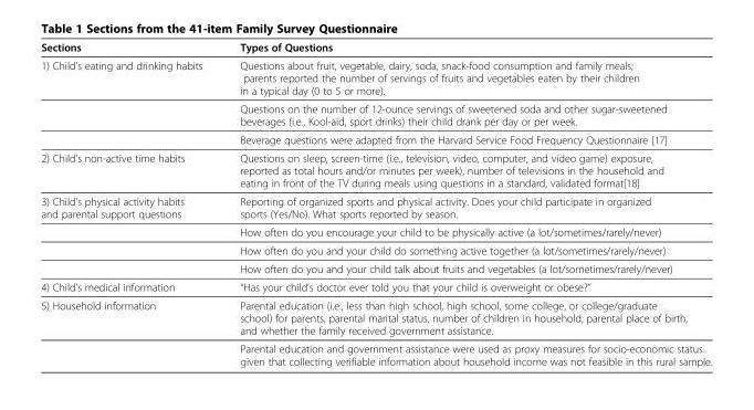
<table><thead><tr><td>Sections</td><td>Types of Questions</td></tr></thead><tbody><tr><td rowspan="3">1) Child’s eating and drinking habits</td><td>Questions about fruit, vegetable, dairy, soda, snack-food consumption and family meals; parents reported the number of servings of fruits and vegetables eaten by their children in a typical day (0 to 5 or more).</td></tr><tr><td>Questions on the number of 12-ounce servings of sweetened soda and other sugar-sweetened beverages (i.e., Kool-aid, sport drinks) their child drank per day or per week.</td></tr><tr><td>Beverage questions were adapted from the Harvard Service Food Frequency Questionnaire [17]</td></tr><tr><td>2) Child’s non-active time habits</td><td>Questions on sleep, screen-time (i.e., television, video, computer, and video game) exposure, reported as total hours and/or minutes per week), number of televisions in the household and eating in front of the TV during meals using questions in a standard, validated format[18]</td></tr><tr><td rowspan="4">3) Child’s physical activity habits and parental support questions</td><td>Reporting of organized sports and physical activity. Does your child participate in organized sports (Yes/No). What sports reported by season.</td></tr><tr><td>How often do you encourage your child to be physically active (a lot/sometimes/rarely/never)</td></tr><tr><td>How often do you and your child do something active together (a lot/sometimes/rarely/never)</td></tr><tr><td>How often do you and your child talk about fruits and vegetables (a lot/sometimes/rarely/never)</td></tr><tr><td>4) Child’s medical information</td><td>“Has your child’s doctor ever told you that your child is overweight or obese?”</td></tr><tr><td rowspan="2">5) Household information</td><td>Parental education (i.e., less than high school, high school, some college, or college/graduate school) for parents, parental marital status, number of children in household, parental place of birth, and whether the family received government assistance.</td></tr><tr><td>Parental education and government assistance were used as proxy measures for socio-economic status given that collecting verifiable information about household income was not feasible in this rural sample.</td></tr></tbody></table>